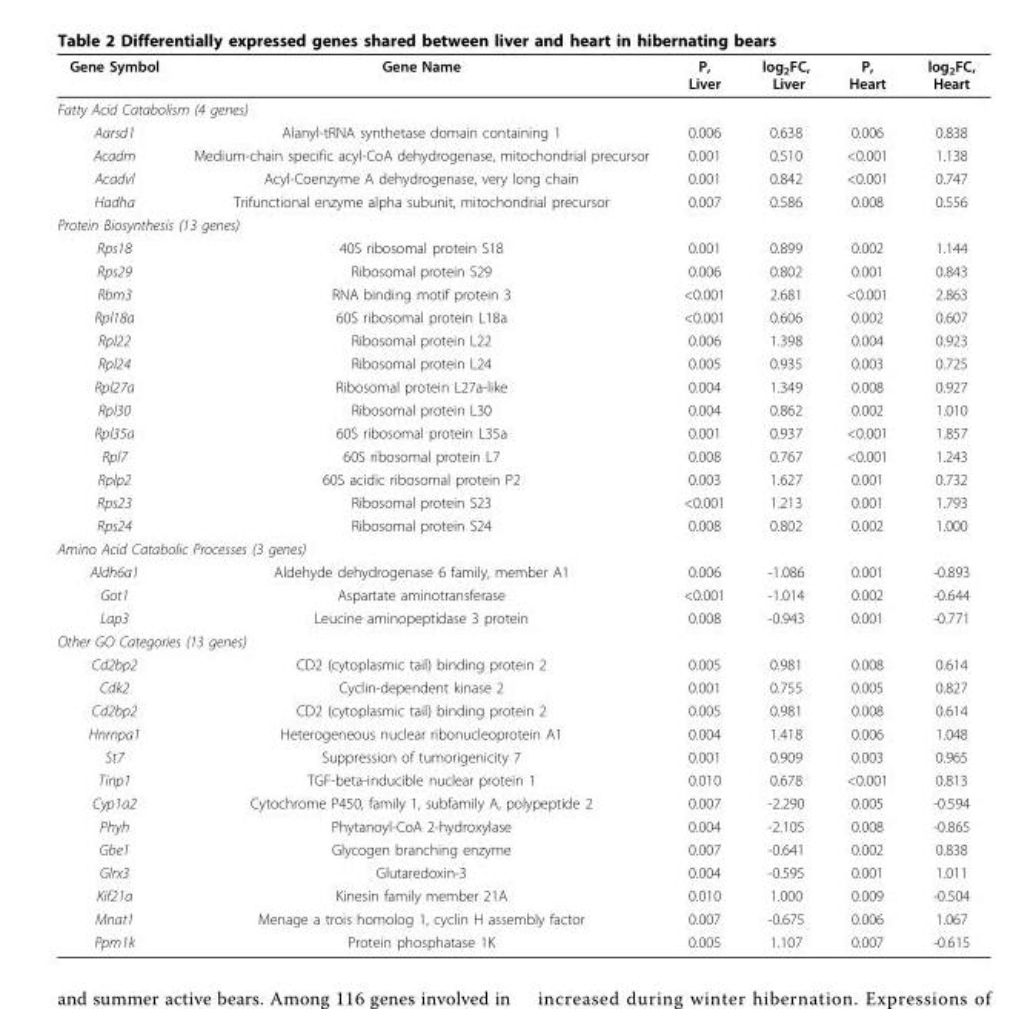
<table><thead><tr><td>Gene Symbol</td><td>Gene Name</td><td>P, Liver</td><td>log<sub>2</sub>FC, Liver</td><td>P, Heart</td><td>log<sub>2</sub>FC, Heart</td></tr></thead><tbody><tr><td colspan="6">Fatty Acid Catabolism (4 genes)</td></tr><tr><td>Aarsd1</td><td>Alanyl-tRNA synthetase domain containing 1</td><td>0.006</td><td>0.638</td><td>0.006</td><td>0.838</td></tr><tr><td>Acadm</td><td>Medium-chain specific acyl-CoA dehydrogenase, mitochondrial precursor</td><td>0.001</td><td>0.510</td><td>&lt;0.001</td><td>1.138</td></tr><tr><td>Acadvl</td><td>Acyl-Coenzyme A dehydrogenase, very long chain</td><td>0.001</td><td>0.842</td><td>&lt;0.001</td><td>0.747</td></tr><tr><td>Hadha</td><td>Trifunctional enzyme alpha subunit, mitochondrial precursor</td><td>0.007</td><td>0.586</td><td>0.008</td><td>0.556</td></tr><tr><td colspan="6">Protein Biosynthesis (13 genes)</td></tr><tr><td>Rps18</td><td>40S ribosomal protein S18</td><td>0.001</td><td>0.899</td><td>0.002</td><td>1.144</td></tr><tr><td>Rps29</td><td>Ribosomal protein S29</td><td>0.006</td><td>0.802</td><td>0.001</td><td>0.843</td></tr><tr><td>Rbm3</td><td>RNA binding motif protein 3</td><td>&lt;0.001</td><td>2.681</td><td>&lt;0.001</td><td>2.863</td></tr><tr><td>Rpl18a</td><td>60S ribosomal protein L18a</td><td>&lt;0.001</td><td>0.606</td><td>0.002</td><td>0.607</td></tr><tr><td>Rpl22</td><td>Ribosomal protein L22</td><td>0.006</td><td>1.398</td><td>0.004</td><td>0.923</td></tr><tr><td>Rpl24</td><td>Ribosomal protein L24</td><td>0.005</td><td>0.935</td><td>0.003</td><td>0.725</td></tr><tr><td>Rpl27a</td><td>Ribosomal protein L27a-like</td><td>0.004</td><td>1.349</td><td>0.008</td><td>0.927</td></tr><tr><td>Rpl30</td><td>Ribosomal protein L30</td><td>0.004</td><td>0.862</td><td>0.002</td><td>1.010</td></tr><tr><td>Rpl35a</td><td>60S ribosomal protein L35a</td><td>0.001</td><td>0.937</td><td>&lt;0.001</td><td>1.857</td></tr><tr><td>Rpl7</td><td>60S ribosomal protein L7</td><td>0.008</td><td>0.767</td><td>&lt;0.001</td><td>1.243</td></tr><tr><td>Rplp2</td><td>60S acidic ribosomal protein P2</td><td>0.003</td><td>1.627</td><td>0.001</td><td>0.732</td></tr><tr><td>Rps23</td><td>Ribosomal protein S23</td><td>&lt;0.001</td><td>1.213</td><td>0.001</td><td>1.793</td></tr><tr><td>Rps24</td><td>Ribosomal protein S24</td><td>0.008</td><td>0.802</td><td>0.002</td><td>1.000</td></tr><tr><td colspan="6">Amino Acid Catabolic Processes (3 genes)</td></tr><tr><td>Aldh6a1</td><td>Aldehyde dehydrogenase 6 family, member A1</td><td>0.006</td><td>-1.086</td><td>0.001</td><td>-0.893</td></tr><tr><td>Got1</td><td>Aspartate aminotransferase</td><td>&lt;0.001</td><td>-1.014</td><td>0.002</td><td>-0.644</td></tr><tr><td>Lap3</td><td>Leucine aminopeptidase 3 protein</td><td>0.008</td><td>-0.943</td><td>0.001</td><td>-0.771</td></tr><tr><td colspan="6">Other GO Categories (13 genes)</td></tr><tr><td>Cd2bp2</td><td>CD2 (cytoplasmic tail) binding protein 2</td><td>0.005</td><td>0.981</td><td>0.008</td><td>0.614</td></tr><tr><td>Cdk2</td><td>Cyclin-dependent kinase 2</td><td>0.001</td><td>0.755</td><td>0.005</td><td>0.827</td></tr><tr><td>Cd2bp2</td><td>CD2 (cytoplasmic tail) binding protein 2</td><td>0.005</td><td>0.981</td><td>0.008</td><td>0.614</td></tr><tr><td>Hnrnpa1</td><td>Heterogeneous nuclear ribonucleoprotein A1</td><td>0.004</td><td>1.418</td><td>0.006</td><td>1.048</td></tr><tr><td>St7</td><td>Suppression of tumorigenicity 7</td><td>0.001</td><td>0.909</td><td>0.003</td><td>0.965</td></tr><tr><td>Tinp1</td><td>TGF-beta-inducible nuclear protein 1</td><td>0.010</td><td>0.678</td><td>&lt;0.001</td><td>0.813</td></tr><tr><td>Cyp1a2</td><td>Cytochrome P450, family 1, subfamily A, polypeptide 2</td><td>0.007</td><td>-2.290</td><td>0.005</td><td>-0.594</td></tr><tr><td>Phyh</td><td>Phytanoyl-CoA 2-hydroxylase</td><td>0.004</td><td>-2.105</td><td>0.008</td><td>-0.865</td></tr><tr><td>Gbe1</td><td>Glycogen branching enzyme</td><td>0.007</td><td>-0.641</td><td>0.002</td><td>0.838</td></tr><tr><td>Glrx3</td><td>Glutaredoxin-3</td><td>0.004</td><td>-0.595</td><td>0.001</td><td>1.011</td></tr><tr><td>Kif21a</td><td>Kinesin family member 21A</td><td>0.010</td><td>1.000</td><td>0.009</td><td>-0.504</td></tr><tr><td>Mnat1</td><td>Menage a trois homolog 1, cyclin H assembly factor</td><td>0.007</td><td>-0.675</td><td>0.006</td><td>1.067</td></tr><tr><td>Ppm1k</td><td>Protein phosphatase 1K</td><td>0.005</td><td>1.107</td><td>0.007</td><td>-0.615</td></tr></tbody></table>